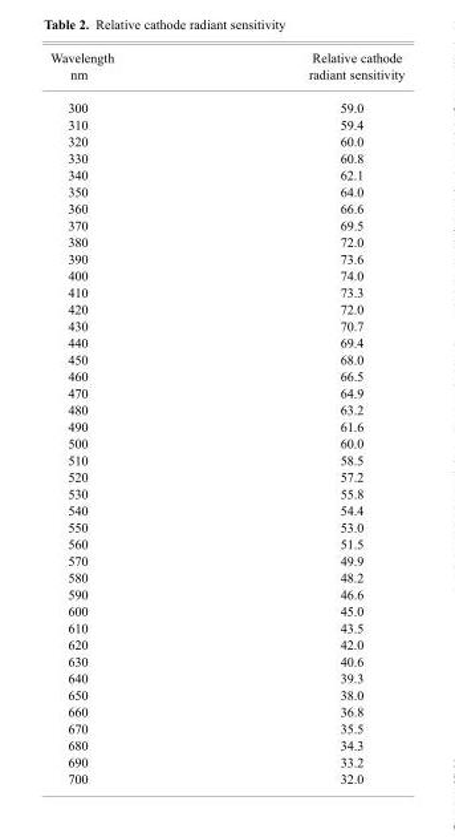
<table><thead><tr><td>Wavelength nm</td><td>Relative cathode radiant sensitivity</td></tr></thead><tbody><tr><td>300</td><td>59.0</td></tr><tr><td>310</td><td>59.4</td></tr><tr><td>320</td><td>60.0</td></tr><tr><td>330</td><td>60.8</td></tr><tr><td>340</td><td>62.1</td></tr><tr><td>350</td><td>64.0</td></tr><tr><td>360</td><td>66.6</td></tr><tr><td>370</td><td>69.5</td></tr><tr><td>380</td><td>72.0</td></tr><tr><td>390</td><td>73.6</td></tr><tr><td>400</td><td>74.0</td></tr><tr><td>410</td><td>73.3</td></tr><tr><td>420</td><td>72.0</td></tr><tr><td>430</td><td>70.7</td></tr><tr><td>440</td><td>69.4</td></tr><tr><td>450</td><td>68.0</td></tr><tr><td>460</td><td>66.5</td></tr><tr><td>470</td><td>64.9</td></tr><tr><td>480</td><td>63.2</td></tr><tr><td>490</td><td>61.6</td></tr><tr><td>500</td><td>60.0</td></tr><tr><td>510</td><td>58.5</td></tr><tr><td>520</td><td>57.2</td></tr><tr><td>530</td><td>55.8</td></tr><tr><td>540</td><td>54.4</td></tr><tr><td>550</td><td>53.0</td></tr><tr><td>560</td><td>51.5</td></tr><tr><td>570</td><td>49.9</td></tr><tr><td>580</td><td>48.2</td></tr><tr><td>590</td><td>46.6</td></tr><tr><td>600</td><td>45.0</td></tr><tr><td>610</td><td>43.5</td></tr><tr><td>620</td><td>42.0</td></tr><tr><td>630</td><td>40.6</td></tr><tr><td>640</td><td>39.3</td></tr><tr><td>650</td><td>38.0</td></tr><tr><td>660</td><td>36.8</td></tr><tr><td>670</td><td>35.5</td></tr><tr><td>680</td><td>34.3</td></tr><tr><td>690</td><td>33.2</td></tr><tr><td>700</td><td>32.0</td></tr></tbody></table>